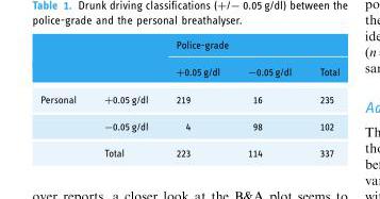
<table><thead><tr><td rowspan="2"></td><td rowspan="2"></td><td colspan="3">Police-grade</td></tr><tr><td>+0.05 g/dl</td><td>−0.05 g/dl</td><td>Total</td></tr></thead><tbody><tr><td rowspan="3">Personal</td><td>+0.05 g/dl</td><td>219</td><td>16</td><td>235</td></tr><tr><td>−0.05 g/dl</td><td>4</td><td>98</td><td>102</td></tr><tr><td>Total</td><td>223</td><td>114</td><td>337</td></tr></tbody></table>